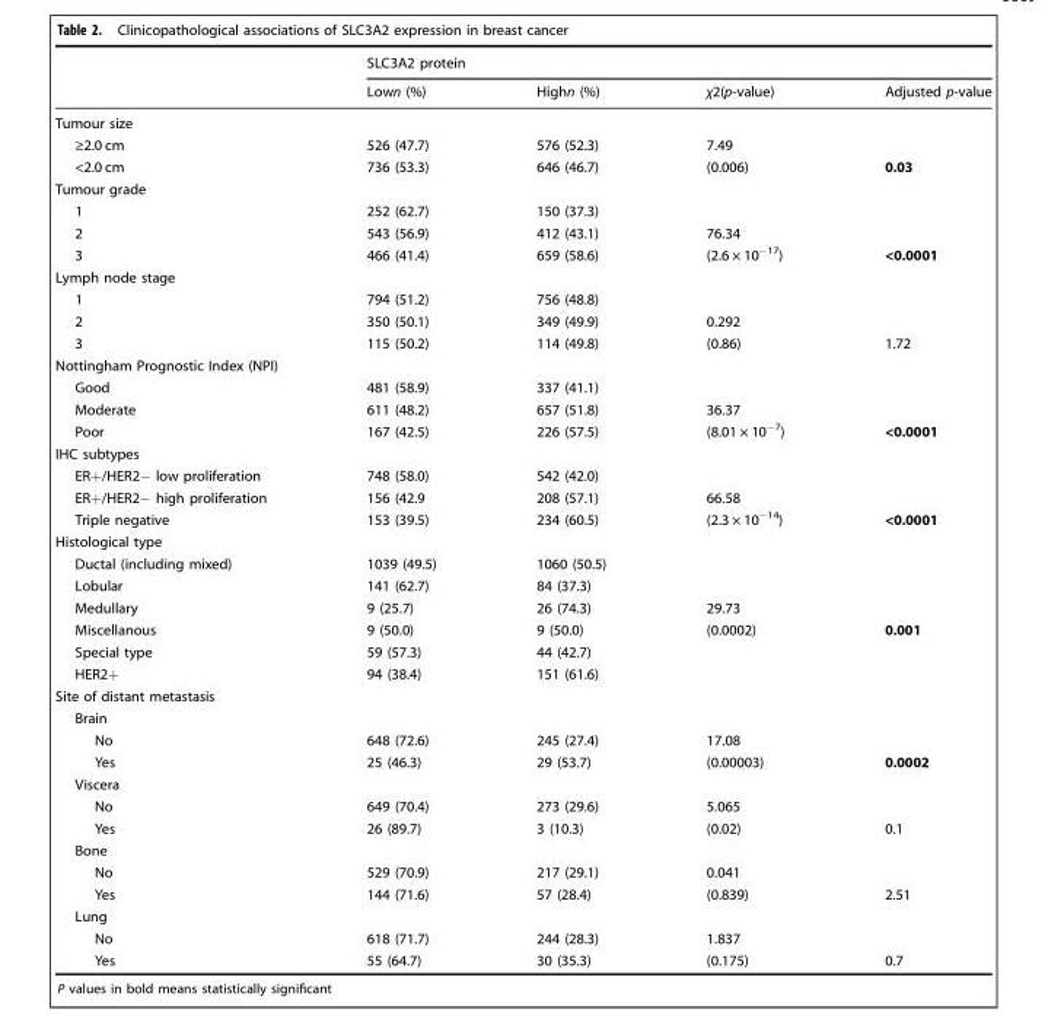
<table><thead><tr><td rowspan="2"></td><td colspan="4">SLC3A2 protein</td></tr><tr><td>Lown (%)</td><td>Highn (%)</td><td>χ2(p-value)</td><td>Adjusted p-value</td></tr></thead><tbody><tr><td colspan="5">Tumour size</td></tr><tr><td>≥2.0 cm</td><td>526 (47.7)</td><td>576 (52.3)</td><td>7.49</td><td></td></tr><tr><td>&lt;2.0 cm</td><td>736 (53.3)</td><td>646 (46.7)</td><td>(0.006)</td><td>0.03</td></tr><tr><td colspan="5">Tumour grade</td></tr><tr><td>1</td><td>252 (62.7)</td><td>150 (37.3)</td><td></td><td></td></tr><tr><td>2</td><td>543 (56.9)</td><td>412 (43.1)</td><td>76.34</td><td></td></tr><tr><td>3</td><td>466 (41.4)</td><td>659 (58.6)</td><td>(2.6 × 10<sup>−17</sup>)</td><td>&lt;0.0001</td></tr><tr><td colspan="5">Lymph node stage</td></tr><tr><td>1</td><td>794 (51.2)</td><td>756 (48.8)</td><td></td><td></td></tr><tr><td>2</td><td>350 (50.1)</td><td>349 (49.9)</td><td>0.292</td><td></td></tr><tr><td>3</td><td>115 (50.2)</td><td>114 (49.8)</td><td>(0.86)</td><td>1.72</td></tr><tr><td colspan="5">Nottingham Prognostic Index (NPI)</td></tr><tr><td>Good</td><td>481 (58.9)</td><td>337 (41.1)</td><td></td><td></td></tr><tr><td>Moderate</td><td>611 (48.2)</td><td>657 (51.8)</td><td>36.37</td><td></td></tr><tr><td>Poor</td><td>167 (42.5)</td><td>226 (57.5)</td><td>(8.01 × 10<sup>−7</sup>)</td><td>&lt;0.0001</td></tr><tr><td colspan="5">IHC subtypes</td></tr><tr><td>ER+/HER2− low proliferation</td><td>748 (58.0)</td><td>542 (42.0)</td><td></td><td></td></tr><tr><td>ER+/HER2− high proliferation</td><td>156 (42.9</td><td>208 (57.1)</td><td>66.58</td><td></td></tr><tr><td>Triple negative</td><td>153 (39.5)</td><td>234 (60.5)</td><td>(2.3 × 10<sup>−14</sup>)</td><td>&lt;0.0001</td></tr><tr><td colspan="5">Histological type</td></tr><tr><td>Ductal (including mixed)</td><td>1039 (49.5)</td><td>1060 (50.5)</td><td></td><td></td></tr><tr><td>Lobular</td><td>141 (62.7)</td><td>84 (37.3)</td><td></td><td></td></tr><tr><td>Medullary</td><td>9 (25.7)</td><td>26 (74.3)</td><td>29.73</td><td></td></tr><tr><td>Miscellanous</td><td>9 (50.0)</td><td>9 (50.0)</td><td>(0.0002)</td><td>0.001</td></tr><tr><td>Special type</td><td>59 (57.3)</td><td>44 (42.7)</td><td></td><td></td></tr><tr><td>HER2+</td><td>94 (38.4)</td><td>151 (61.6)</td><td></td><td></td></tr><tr><td colspan="5">Site of distant metastasis</td></tr><tr><td colspan="5">Brain</td></tr><tr><td>No</td><td>648 (72.6)</td><td>245 (27.4)</td><td>17.08</td><td></td></tr><tr><td>Yes</td><td>25 (46.3)</td><td>29 (53.7)</td><td>(0.00003)</td><td>0.0002</td></tr><tr><td colspan="5">Viscera</td></tr><tr><td>No</td><td>649 (70.4)</td><td>273 (29.6)</td><td>5.065</td><td></td></tr><tr><td>Yes</td><td>26 (89.7)</td><td>3 (10.3)</td><td>(0.02)</td><td>0.1</td></tr><tr><td colspan="5">Bone</td></tr><tr><td>No</td><td>529 (70.9)</td><td>217 (29.1)</td><td>0.041</td><td></td></tr><tr><td>Yes</td><td>144 (71.6)</td><td>57 (28.4)</td><td>(0.839)</td><td>2.51</td></tr><tr><td colspan="5">Lung</td></tr><tr><td>No</td><td>618 (71.7)</td><td>244 (28.3)</td><td>1.837</td><td></td></tr><tr><td>Yes</td><td>55 (64.7)</td><td>30 (35.3)</td><td>(0.175)</td><td>0.7</td></tr></tbody></table>